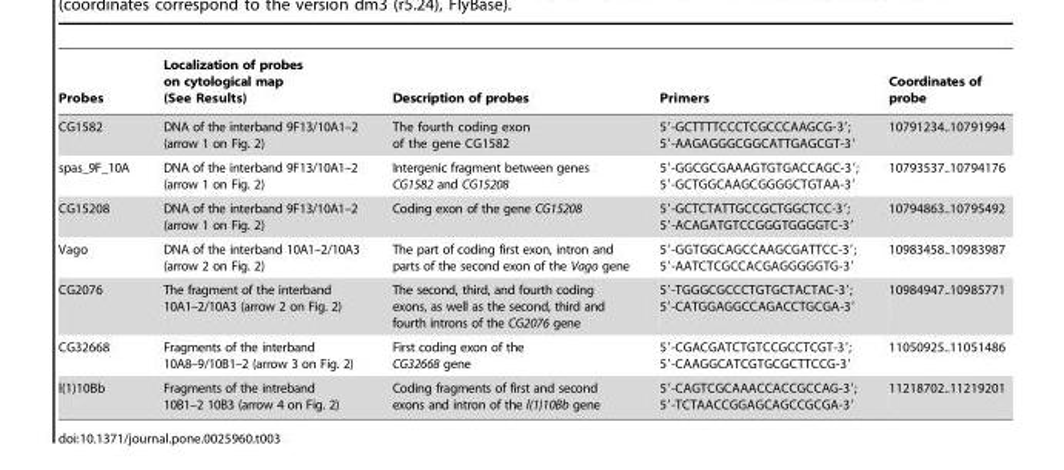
<table><thead><tr><td>Probes</td><td>Localization of probes on cytological map (See Results)</td><td>Description of probes</td><td>Primers</td><td>Coordinates of probe</td></tr></thead><tbody><tr><td>CG1582</td><td>DNA of the interband 9F13/10A1–2 (arrow 1 on Fig. 2)</td><td>The fourth coding exon of the gene CG1582</td><td>5′-GCTTTTCCCTCGCCCAAGCG-3′; 5′-AAGAGGGCGGCATTGAGCGT-3′</td><td>10791234..10791994</td></tr><tr><td>spas_9F_10A</td><td>DNA of the interband 9F13/10A1–2 (arrow 1 on Fig. 2)</td><td>Intergenic fragment between genes CG1582 and CG15208</td><td>5′-GGCGCGAAAGTGTGACCAGC-3′; 5′-GCTGGCAAGCGGGGCTGTAA-3′</td><td>10793537..10794176</td></tr><tr><td>CG15208</td><td>DNA of the interband 9F13/10A1–2 (arrow 1 on Fig. 2)</td><td>Coding exon of the gene CG15208</td><td>5′-GCTCTATTGCCGCTGGCTCC-3′; 5′-ACAGATGTCCGGGTGGGGTC-3′</td><td>10794863..10795492</td></tr><tr><td>Vago</td><td>DNA of the interband 10A1–2/10A3 (arrow 2 on Fig. 2)</td><td>The part of coding first exon, intron and parts of the second exon of the Vago gene</td><td>5′-GGTGGCAGCCAAGCGATTCC-3′; 5′-AATCTCGCCACGAGGGGGTG-3′</td><td>10983458..10983987</td></tr><tr><td>CG2076</td><td>The fragment of the interband 10A1–2/10A3 (arrow 2 on Fig. 2)</td><td>The second, third, and fourth coding exons, as well as the second, third and fourth introns of the CG2076 gene</td><td>5′-TGGGCGCCCTGTGCTACTAC-3′; 5′-CATGGAGGCCAGACCTGCGA-3′</td><td>10984947..10985771</td></tr><tr><td>CG32668</td><td>Fragments of the interband 10A8–9/10B1–2 (arrow 3 on Fig. 2)</td><td>First coding exon of the CG32668 gene</td><td>5′-CGACGATCTGTCCGCCTCGT-3′; 5′-CAAGGCATCGTGCGCTTCCG-3′</td><td>11050925..11051486</td></tr><tr><td>l(1)10Bb</td><td>Fragments of the intreband 10B1–2 10B3 (arrow 4 on Fig. 2)</td><td>Coding fragments of first and second exons and intron of the l(1)10Bb gene</td><td>5′-CAGTCGCAAACCACCGCCAG-3′; 5′-TCTAACCGGAGCAGCCGCGA-3′</td><td>11218702..11219201</td></tr></tbody></table>